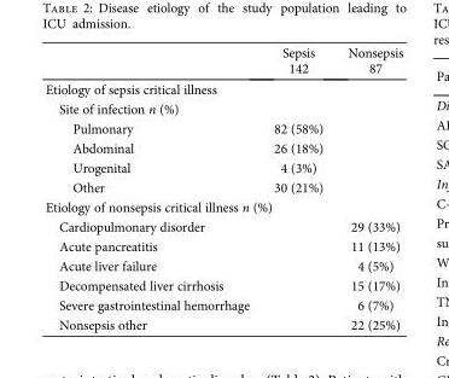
<table><thead><tr><td rowspan="2"></td><td rowspan="2">Sepsis 142</td><td rowspan="2">Nonsepsis 87</td></tr><tr></tr></thead><tbody><tr><td colspan="3">Etiology of sepsis critical illness</td></tr><tr><td colspan="3">Site of infection n (%)</td></tr><tr><td>Pulmonary</td><td>82 (58%)</td><td></td></tr><tr><td>Abdominal</td><td>26 (18%)</td><td></td></tr><tr><td>Urogenital</td><td>4 (3%)</td><td></td></tr><tr><td>Other</td><td>30 (21%)</td><td></td></tr><tr><td colspan="3">Etiology of nonsepsis critical illness n (%)</td></tr><tr><td>Cardiopulmonary disorder</td><td></td><td>29 (33%)</td></tr><tr><td>Acute pancreatitis</td><td></td><td>11 (13%)</td></tr><tr><td>Acute liver failure</td><td></td><td>4 (5%)</td></tr><tr><td>Decompensated liver cirrhosis</td><td></td><td>15 (17%)</td></tr><tr><td>Severe gastrointestinal hemorrhage</td><td></td><td>6 (7%)</td></tr><tr><td>Nonsepsis other</td><td></td><td>22 (25%)</td></tr></tbody></table>